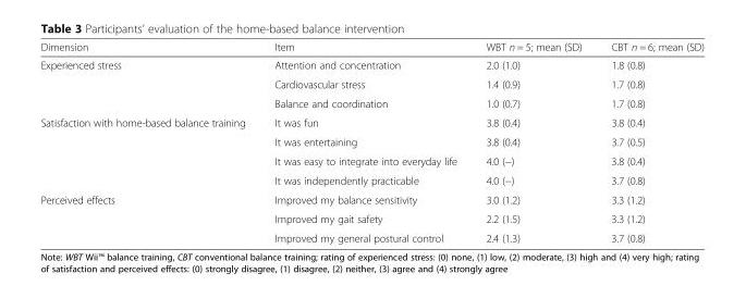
<table><thead><tr><td>Dimension</td><td>Item</td><td>WBT n = 5; mean (SD)</td><td>CBT n = 6; mean (SD)</td></tr></thead><tbody><tr><td rowspan="3">Experienced stress</td><td>Attention and concentration</td><td>2.0 (1.0)</td><td>1.8 (0.8)</td></tr><tr><td>Cardiovascular stress</td><td>1.4 (0.9)</td><td>1.7 (0.8)</td></tr><tr><td>Balance and coordination</td><td>1.0 (0.7)</td><td>1.7 (0.8)</td></tr><tr><td rowspan="4">Satisfaction with home-based balance training</td><td>It was fun</td><td>3.8 (0.4)</td><td>3.8 (0.4)</td></tr><tr><td>It was entertaining</td><td>3.8 (0.4)</td><td>3.7 (0.5)</td></tr><tr><td>It was easy to integrate into everyday life</td><td>4.0 (−)</td><td>3.8 (0.4)</td></tr><tr><td>It was independently practicable</td><td>4.0 (−)</td><td>3.7 (0.8)</td></tr><tr><td rowspan="3">Perceived effects</td><td>Improved my balance sensitivity</td><td>3.0 (1.2)</td><td>3.3 (1.2)</td></tr><tr><td>Improved my gait safety</td><td>2.2 (1.5)</td><td>3.3 (1.2)</td></tr><tr><td>Improved my general postural control</td><td>2.4 (1.3)</td><td>3.7 (0.8)</td></tr></tbody></table>